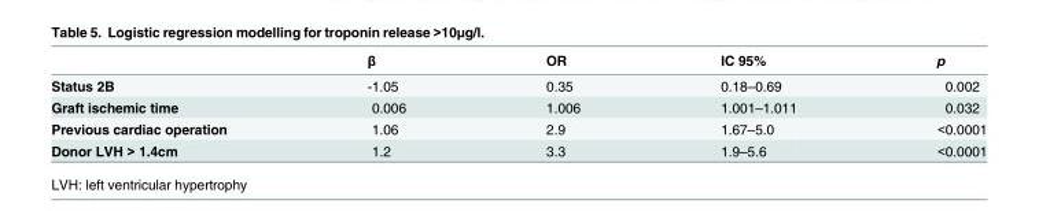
<table><thead><tr><td></td><td>β</td><td>OR</td><td>IC 95%</td><td>p</td></tr></thead><tbody><tr><td>Status 2B</td><td>-1.05</td><td>0.35</td><td>0.18–0.69</td><td>0.002</td></tr><tr><td>Graft ischemic time</td><td>0.006</td><td>1.006</td><td>1.001–1.011</td><td>0.032</td></tr><tr><td>Previous cardiac operation</td><td>1.06</td><td>2.9</td><td>1.67–5.0</td><td>&lt;0.0001</td></tr><tr><td>Donor LVH &gt; 1.4cm</td><td>1.2</td><td>3.3</td><td>1.9–5.6</td><td>&lt;0.0001</td></tr></tbody></table>